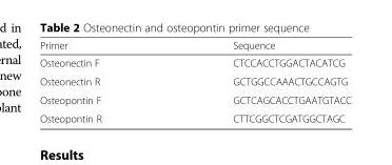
<table><thead><tr><td>Primer</td><td>Sequence</td></tr></thead><tbody><tr><td>Osteonectin F</td><td>CTCCACCTGGACTACATCG</td></tr><tr><td>Osteonectin R</td><td>GCTGGCCAAACTGCCAGTG</td></tr><tr><td>Osteopontin F</td><td>GCTCAGCACCTGAATGTACC</td></tr><tr><td>Osteopontin R</td><td>CTTCGGCTCGATGGCTAGC</td></tr></tbody></table>